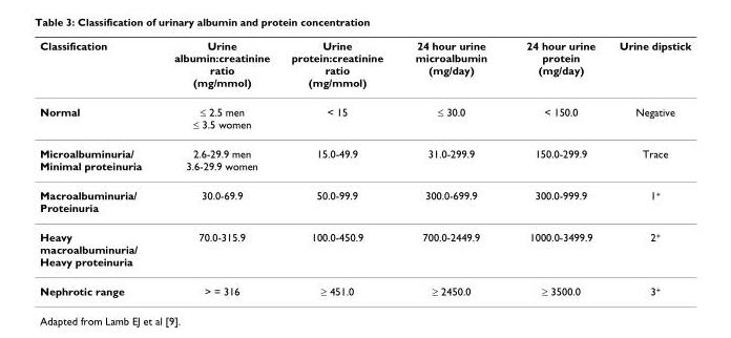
<table><thead><tr><td>Classification</td><td>Urine albumin:creatinine ratio (mg/mmol)</td><td>Urine protein:creatinine ratio (mg/mmol)</td><td>24 hour urine microalbumin (mg/day)</td><td>24 hour urine protein (mg/day)</td><td>Urine dipstick</td></tr></thead><tbody><tr><td>Normal</td><td>≤ 2.5 men ≤ 3.5 women</td><td>&lt; 15</td><td>≤ 30.0</td><td>&lt; 150.0</td><td>Negative</td></tr><tr><td>Microalbuminuria/ Minimal proteinuria</td><td>2.6-29.9 men 3.6-29.9 women</td><td>15.0-49.9</td><td>31.0-299.9</td><td>150.0-299.9</td><td>Trace</td></tr><tr><td>Macroalbuminuria/ Proteinuria</td><td>30.0-69.9</td><td>50.0-99.9</td><td>300.0-699.9</td><td>300.0-999.9</td><td>1<sup>+</sup></td></tr><tr><td>Heavy macroalbuminuria/ Heavy proteinuria</td><td>70.0-315.9</td><td>100.0-450.9</td><td>700.0-2449.9</td><td>1000.0-3499.9</td><td>2<sup>+</sup></td></tr><tr><td>Nephrotic range</td><td>&gt; = 316</td><td>≥ 451.0</td><td>≥ 2450.0</td><td>≥ 3500.0</td><td>3<sup>+</sup></td></tr></tbody></table>